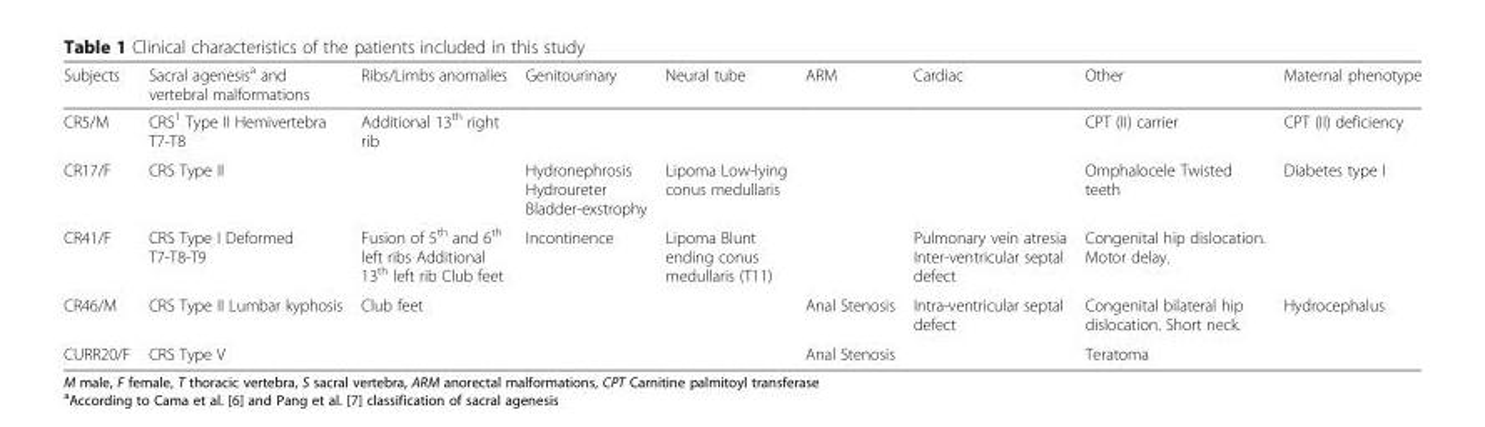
<table><thead><tr><td>Subjects</td><td>Sacral agenesis<sup>a</sup> and vertebral malformations</td><td>Ribs/Limbs anomalies</td><td>Genitourinary</td><td>Neural tube</td><td>ARM</td><td>Cardiac</td><td>Other</td><td>Maternal phenotype</td></tr></thead><tbody><tr><td>CR5/M</td><td>CRS<sup>1</sup> Type II Hemivertebra T7-T8</td><td>Additional 13<sup>th</sup> right rib</td><td></td><td></td><td></td><td></td><td>CPT (II) carrier</td><td>CPT (II) deficiency</td></tr><tr><td>CR17/F</td><td>CRS Type II</td><td></td><td>Hydronephrosis Hydroureter Bladder-exstrophy</td><td>Lipoma Low-lying conus medullaris</td><td></td><td></td><td>Omphalocele Twisted teeth</td><td>Diabetes type I</td></tr><tr><td>CR41/F</td><td>CRS Type I Deformed T7-T8-T9</td><td>Fusion of 5<sup>th</sup> and 6<sup>th</sup> left ribs Additional 13<sup>th</sup> left rib Club feet</td><td>Incontinence</td><td>Lipoma Blunt ending conus medullaris (T11)</td><td></td><td>Pulmonary vein atresia Inter-ventricular septal defect</td><td>Congenital hip dislocation. Motor delay.</td><td></td></tr><tr><td>CR46/M</td><td>CRS Type II Lumbar kyphosis</td><td>Club feet</td><td></td><td></td><td>Anal Stenosis</td><td>Intra-ventricular septal defect</td><td>Congenital bilateral hip dislocation. Short neck.</td><td>Hydrocephalus</td></tr><tr><td>CURR20/F</td><td>CRS Type V</td><td></td><td></td><td></td><td>Anal Stenosis</td><td></td><td>Teratoma</td><td></td></tr></tbody></table>